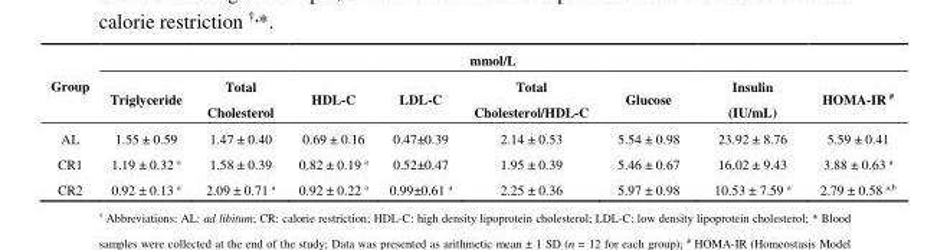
<table><thead><tr><td rowspan="2">Group</td><td rowspan="2">Triglyceride</td><td rowspan="2">Total Cholesterol</td><td colspan="4">mmol/L</td><td rowspan="2">Insulin (IU/mL)</td><td rowspan="2">HOMA-IR <sup>#</sup></td></tr><tr><td>HDL-C</td><td>LDL-C</td><td>Total Cholesterol/HDL-C</td><td>Glucose</td></tr></thead><tbody><tr><td>AL</td><td>1.55 ± 0.59</td><td>1.47 ± 0.40</td><td>0.69 ± 0.16</td><td>0.47±0.39</td><td>2.14 ± 0.53</td><td>5.54 ± 0.98</td><td>23.92 ± 8.76</td><td>5.59 ± 0.41</td></tr><tr><td>CR1</td><td>1.19 ± 0.32 <sup>a</sup></td><td>1.58 ± 0.39</td><td>0.82 ± 0.19 <sup>a</sup></td><td>0.52±0.47</td><td>1.95 ± 0.39</td><td>5.46 ± 0.67</td><td>16.02 ± 9.43</td><td>3.88 ± 0.63 <sup>a</sup></td></tr><tr><td>CR2</td><td>0.92 ± 0.13 <sup>a</sup></td><td>2.09 ± 0.71 <sup>a</sup></td><td>0.92 ± 0.22 <sup>a</sup></td><td>0.99±0.61 <sup>a</sup></td><td>2.25 ± 0.36</td><td>5.97 ± 0.98</td><td>10.53 ± 7.59 <sup>a</sup></td><td>2.79 ± 0.58 <sup>a,b</sup></td></tr></tbody></table>